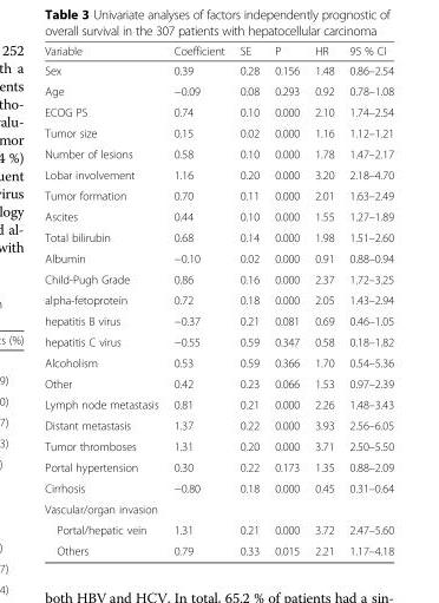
<table><thead><tr><td>Variable</td><td>Coefficient</td><td>SE</td><td>P</td><td>HR</td><td>95 % CI</td></tr></thead><tbody><tr><td>Sex</td><td>0.39</td><td>0.28</td><td>0.156</td><td>1.48</td><td>0.86–2.54</td></tr><tr><td>Age</td><td>−0.09</td><td>0.08</td><td>0.293</td><td>0.92</td><td>0.78–1.08</td></tr><tr><td>ECOG PS</td><td>0.74</td><td>0.10</td><td>0.000</td><td>2.10</td><td>1.74–2.54</td></tr><tr><td>Tumor size</td><td>0.15</td><td>0.02</td><td>0.000</td><td>1.16</td><td>1.12–1.21</td></tr><tr><td>Number of lesions</td><td>0.58</td><td>0.10</td><td>0.000</td><td>1.78</td><td>1.47–2.17</td></tr><tr><td>Lobar involvement</td><td>1.16</td><td>0.20</td><td>0.000</td><td>3.20</td><td>2.18–4.70</td></tr><tr><td>Tumor formation</td><td>0.70</td><td>0.11</td><td>0.000</td><td>2.01</td><td>1.63–2.49</td></tr><tr><td>Ascites</td><td>0.44</td><td>0.10</td><td>0.000</td><td>1.55</td><td>1.27–1.89</td></tr><tr><td>Total bilirubin</td><td>0.68</td><td>0.14</td><td>0.000</td><td>1.98</td><td>1.51–2.60</td></tr><tr><td>Albumin</td><td>−0.10</td><td>0.02</td><td>0.000</td><td>0.91</td><td>0.88–0.94</td></tr><tr><td>Child-Pugh Grade</td><td>0.86</td><td>0.16</td><td>0.000</td><td>2.37</td><td>1.72–3.25</td></tr><tr><td>alpha-fetoprotein</td><td>0.72</td><td>0.18</td><td>0.000</td><td>2.05</td><td>1.43–2.94</td></tr><tr><td>hepatitis B virus</td><td>−0.37</td><td>0.21</td><td>0.081</td><td>0.69</td><td>0.46–1.05</td></tr><tr><td>hepatitis C virus</td><td>−0.55</td><td>0.59</td><td>0.347</td><td>0.58</td><td>0.18–1.82</td></tr><tr><td>Alcoholism</td><td>0.53</td><td>0.59</td><td>0.366</td><td>1.70</td><td>0.54–5.36</td></tr><tr><td>Other</td><td>0.42</td><td>0.23</td><td>0.066</td><td>1.53</td><td>0.97–2.39</td></tr><tr><td>Lymph node metastasis</td><td>0.81</td><td>0.21</td><td>0.000</td><td>2.26</td><td>1.48–3.43</td></tr><tr><td>Distant metastasis</td><td>1.37</td><td>0.22</td><td>0.000</td><td>3.93</td><td>2.56–6.05</td></tr><tr><td>Tumor thromboses</td><td>1.31</td><td>0.20</td><td>0.000</td><td>3.71</td><td>2.50–5.50</td></tr><tr><td>Portal hypertension</td><td>0.30</td><td>0.22</td><td>0.173</td><td>1.35</td><td>0.88–2.09</td></tr><tr><td>Cirrhosis</td><td>−0.80</td><td>0.18</td><td>0.000</td><td>0.45</td><td>0.31–0.64</td></tr><tr><td colspan="6">Vascular/organ invasion</td></tr><tr><td>Portal/hepatic vein</td><td>1.31</td><td>0.21</td><td>0.000</td><td>3.72</td><td>2.47–5.60</td></tr><tr><td>Others</td><td>0.79</td><td>0.33</td><td>0.015</td><td>2.21</td><td>1.17–4.18</td></tr></tbody></table>